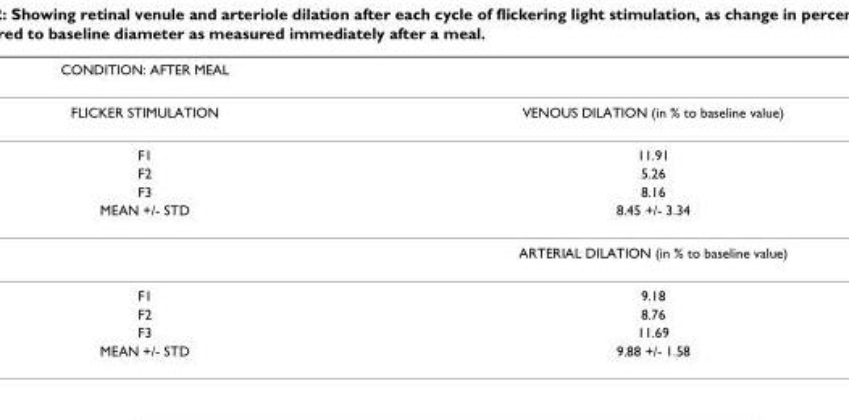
<table><thead><tr><td>CONDITION: AFTER MEAL</td><td></td></tr></thead><tbody><tr><td>FLICKER STIMULATION</td><td>VENOUS DILATION (in % to baseline value)</td></tr><tr><td>F1</td><td>11.91</td></tr><tr><td>F2</td><td>5.26</td></tr><tr><td>F3</td><td>8.16</td></tr><tr><td rowspan="2">MEAN +/- STD</td><td>8.45 +/- 3.34</td></tr><tr><td>ARTERIAL DILATION (in % to baseline value)</td></tr><tr><td>F1</td><td>9.18</td></tr><tr><td>F2</td><td>8.76</td></tr><tr><td>F3</td><td>11.69</td></tr><tr><td>MEAN +/- STD</td><td>9.88 +/- 1.58</td></tr></tbody></table>